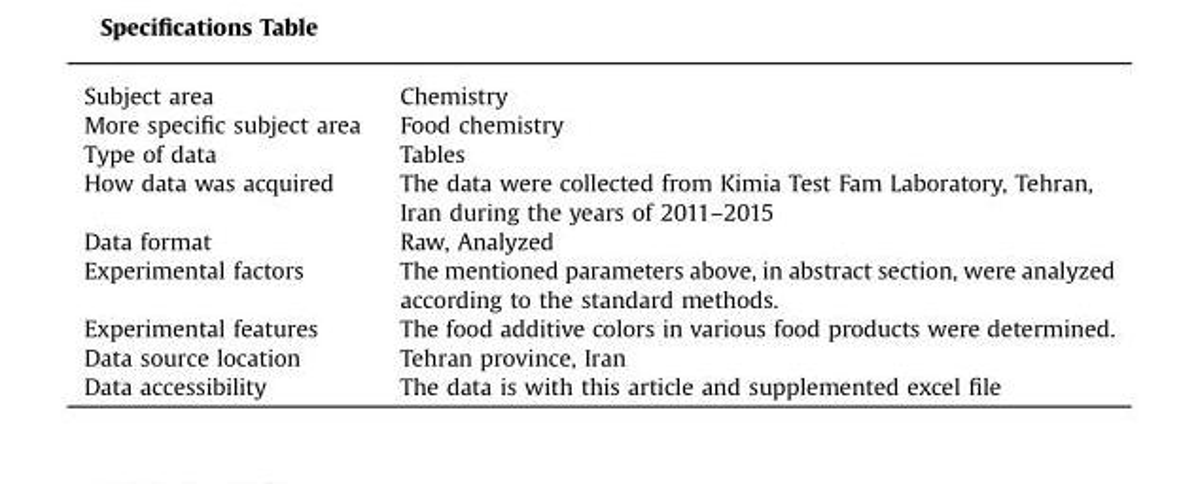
<table><tbody><tr><td>Subject area</td><td>Chemistry</td></tr><tr><td>More specific subject area</td><td>Food chemistry</td></tr><tr><td>Type of data</td><td>Tables</td></tr><tr><td>How data was acquired</td><td>The data were collected from Kimia Test Fam Laboratory, Tehran, Iran during the years of 2011–2015</td></tr><tr><td>Data format</td><td>Raw, Analyzed</td></tr><tr><td>Experimental factors</td><td>The mentioned parameters above, in abstract section, were analyzed according to the standard methods.</td></tr><tr><td>Experimental features</td><td>The food additive colors in various food products were determined.</td></tr><tr><td>Data source location</td><td>Tehran province, Iran</td></tr><tr><td>Data accessibility</td><td>The data is with this article and supplemented excel file</td></tr></tbody></table>